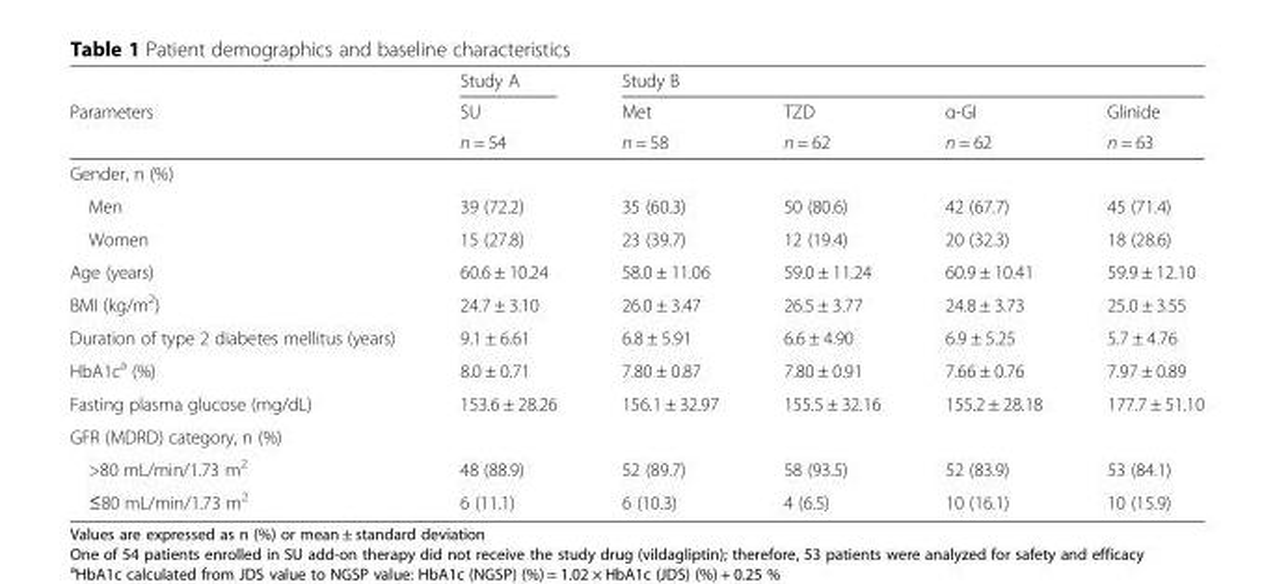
<table><thead><tr><td rowspan="3">Parameters</td><td rowspan="3">Study A SU n = 54</td><td colspan="4">Study B</td></tr><tr><td rowspan="2">Met n = 58</td><td rowspan="2">TZD n = 62</td><td rowspan="2">α-GI n = 62</td><td rowspan="2">Glinide n = 63</td></tr><tr></tr></thead><tbody><tr><td colspan="6">Gender, n (%)</td></tr><tr><td>Men</td><td>39 (72.2)</td><td>35 (60.3)</td><td>50 (80.6)</td><td>42 (67.7)</td><td>45 (71.4)</td></tr><tr><td>Women</td><td>15 (27.8)</td><td>23 (39.7)</td><td>12 (19.4)</td><td>20 (32.3)</td><td>18 (28.6)</td></tr><tr><td>Age (years)</td><td>60.6 ± 10.24</td><td>58.0 ± 11.06</td><td>59.0 ± 11.24</td><td>60.9 ± 10.41</td><td>59.9 ± 12.10</td></tr><tr><td>BMI (kg/m<sup>2</sup>)</td><td>24.7 ± 3.10</td><td>26.0 ± 3.47</td><td>26.5 ± 3.77</td><td>24.8 ± 3.73</td><td>25.0 ± 3.55</td></tr><tr><td>Duration of type 2 diabetes mellitus (years)</td><td>9.1 ± 6.61</td><td>6.8 ± 5.91</td><td>6.6 ± 4.90</td><td>6.9 ± 5.25</td><td>5.7 ± 4.76</td></tr><tr><td>HbA1c<sup>a</sup> (%)</td><td>8.0 ± 0.71</td><td>7.80 ± 0.87</td><td>7.80 ± 0.91</td><td>7.66 ± 0.76</td><td>7.97 ± 0.89</td></tr><tr><td>Fasting plasma glucose (mg/dL)</td><td>153.6 ± 28.26</td><td>156.1 ± 32.97</td><td>155.5 ± 32.16</td><td>155.2 ± 28.18</td><td>177.7 ± 51.10</td></tr><tr><td colspan="6">GFR (MDRD) category, n (%)</td></tr><tr><td>&gt;80 mL/min/1.73 m<sup>2</sup></td><td>48 (88.9)</td><td>52 (89.7)</td><td>58 (93.5)</td><td>52 (83.9)</td><td>53 (84.1)</td></tr><tr><td>≤80 mL/min/1.73 m<sup>2</sup></td><td>6 (11.1)</td><td>6 (10.3)</td><td>4 (6.5)</td><td>10 (16.1)</td><td>10 (15.9)</td></tr></tbody></table>